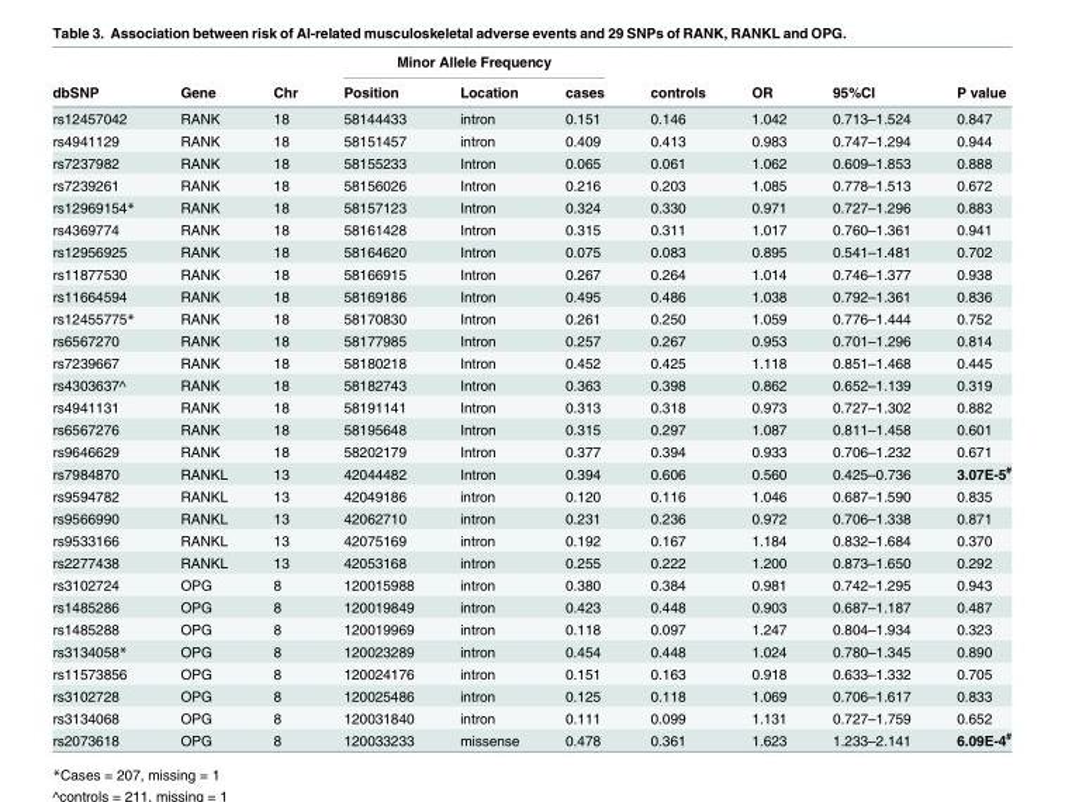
<table><thead><tr><td rowspan="2">dbSNP</td><td rowspan="2">Gene</td><td rowspan="2">Chr</td><td colspan="3">Minor Allele Frequency</td><td rowspan="2">controls</td><td rowspan="2">OR</td><td rowspan="2">95%CI</td><td rowspan="2">P value</td></tr><tr><td>Position</td><td>Location</td><td>cases</td></tr></thead><tbody><tr><td>rs12457042</td><td>RANK</td><td>18</td><td>58144433</td><td>intron</td><td>0.151</td><td>0.146</td><td>1.042</td><td>0.713–1.524</td><td>0.847</td></tr><tr><td>rs4941129</td><td>RANK</td><td>18</td><td>58151457</td><td>intron</td><td>0.409</td><td>0.413</td><td>0.983</td><td>0.747–1.294</td><td>0.944</td></tr><tr><td>rs7237982</td><td>RANK</td><td>18</td><td>58155233</td><td>Intron</td><td>0.065</td><td>0.061</td><td>1.062</td><td>0.609–1.853</td><td>0.888</td></tr><tr><td>rs7239261</td><td>RANK</td><td>18</td><td>58156026</td><td>Intron</td><td>0.216</td><td>0.203</td><td>1.085</td><td>0.778–1.513</td><td>0.672</td></tr><tr><td>rs12969154*</td><td>RANK</td><td>18</td><td>58157123</td><td>Intron</td><td>0.324</td><td>0.330</td><td>0.971</td><td>0.727–1.296</td><td>0.883</td></tr><tr><td>rs4369774</td><td>RANK</td><td>18</td><td>58161428</td><td>Intron</td><td>0.315</td><td>0.311</td><td>1.017</td><td>0.760–1.361</td><td>0.941</td></tr><tr><td>rs12956925</td><td>RANK</td><td>18</td><td>58164620</td><td>Intron</td><td>0.075</td><td>0.083</td><td>0.895</td><td>0.541–1.481</td><td>0.702</td></tr><tr><td>rs11877530</td><td>RANK</td><td>18</td><td>58166915</td><td>Intron</td><td>0.267</td><td>0.264</td><td>1.014</td><td>0.746–1.377</td><td>0.938</td></tr><tr><td>rs11664594</td><td>RANK</td><td>18</td><td>58169186</td><td>Intron</td><td>0.495</td><td>0.486</td><td>1.038</td><td>0.792–1.361</td><td>0.836</td></tr><tr><td>rs12455775*</td><td>RANK</td><td>18</td><td>58170830</td><td>Intron</td><td>0.261</td><td>0.250</td><td>1.059</td><td>0.776–1.444</td><td>0.752</td></tr><tr><td>rs6567270</td><td>RANK</td><td>18</td><td>58177985</td><td>Intron</td><td>0.257</td><td>0.267</td><td>0.953</td><td>0.701–1.296</td><td>0.814</td></tr><tr><td>rs7239667</td><td>RANK</td><td>18</td><td>58180218</td><td>Intron</td><td>0.452</td><td>0.425</td><td>1.118</td><td>0.851–1.468</td><td>0.445</td></tr><tr><td>rs4303637^</td><td>RANK</td><td>18</td><td>58182743</td><td>Intron</td><td>0.363</td><td>0.398</td><td>0.862</td><td>0.652–1.139</td><td>0.319</td></tr><tr><td>rs4941131</td><td>RANK</td><td>18</td><td>58191141</td><td>Intron</td><td>0.313</td><td>0.318</td><td>0.973</td><td>0.727–1.302</td><td>0.882</td></tr><tr><td>rs6567276</td><td>RANK</td><td>18</td><td>58195648</td><td>Intron</td><td>0.315</td><td>0.297</td><td>1.087</td><td>0.811–1.458</td><td>0.601</td></tr><tr><td>rs9646629</td><td>RANK</td><td>18</td><td>58202179</td><td>Intron</td><td>0.377</td><td>0.394</td><td>0.933</td><td>0.706–1.232</td><td>0.671</td></tr><tr><td>rs7984870</td><td>RANKL</td><td>13</td><td>42044482</td><td>Intron</td><td>0.394</td><td>0.606</td><td>0.560</td><td>0.425–0.736</td><td>3.07E-5<sup>#</sup></td></tr><tr><td>rs9594782</td><td>RANKL</td><td>13</td><td>42049186</td><td>intron</td><td>0.120</td><td>0.116</td><td>1.046</td><td>0.687–1.590</td><td>0.835</td></tr><tr><td>rs9566990</td><td>RANKL</td><td>13</td><td>42062710</td><td>intron</td><td>0.231</td><td>0.236</td><td>0.972</td><td>0.706–1.338</td><td>0.871</td></tr><tr><td>rs9533166</td><td>RANKL</td><td>13</td><td>42075169</td><td>intron</td><td>0.192</td><td>0.167</td><td>1.184</td><td>0.832–1.684</td><td>0.370</td></tr><tr><td>rs2277438</td><td>RANKL</td><td>13</td><td>42053168</td><td>intron</td><td>0.255</td><td>0.222</td><td>1.200</td><td>0.873–1.650</td><td>0.292</td></tr><tr><td>rs3102724</td><td>OPG</td><td>8</td><td>120015988</td><td>intron</td><td>0.380</td><td>0.384</td><td>0.981</td><td>0.742–1.295</td><td>0.943</td></tr><tr><td>rs1485286</td><td>OPG</td><td>8</td><td>120019849</td><td>intron</td><td>0.423</td><td>0.448</td><td>0.903</td><td>0.687–1.187</td><td>0.487</td></tr><tr><td>rs1485288</td><td>OPG</td><td>8</td><td>120019969</td><td>intron</td><td>0.118</td><td>0.097</td><td>1.247</td><td>0.804–1.934</td><td>0.323</td></tr><tr><td>rs3134058*</td><td>OPG</td><td>8</td><td>120023289</td><td>intron</td><td>0.454</td><td>0.448</td><td>1.024</td><td>0.780–1.345</td><td>0.890</td></tr><tr><td>rs11573856</td><td>OPG</td><td>8</td><td>120024176</td><td>intron</td><td>0.151</td><td>0.163</td><td>0.918</td><td>0.633–1.332</td><td>0.705</td></tr><tr><td>rs3102728</td><td>OPG</td><td>8</td><td>120025486</td><td>intron</td><td>0.125</td><td>0.118</td><td>1.069</td><td>0.706–1.617</td><td>0.833</td></tr><tr><td>rs3134068</td><td>OPG</td><td>8</td><td>120031840</td><td>intron</td><td>0.111</td><td>0.099</td><td>1.131</td><td>0.727–1.759</td><td>0.652</td></tr><tr><td>rs2073618</td><td>OPG</td><td>8</td><td>120033233</td><td>missense</td><td>0.478</td><td>0.361</td><td>1.623</td><td>1.233–2.141</td><td>6.09E-4<sup>#</sup></td></tr></tbody></table>